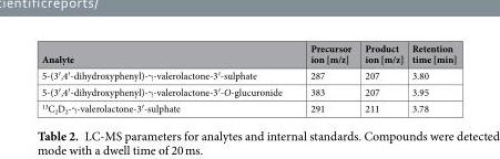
<table><thead><tr><td>Analyte</td><td>Precursor ion [m/z]</td><td>Product ion [m/z]</td><td>Retention time [min]</td></tr></thead><tbody><tr><td>5-(3′,4′-dihydroxyphenyl)-γ-valerolactone-3′-sulphate</td><td>287</td><td>207</td><td>3.80</td></tr><tr><td>5-(3′,4′-dihydroxyphenyl)-γ-valerolactone-3′-O-glucuronide</td><td>383</td><td>207</td><td>3.95</td></tr><tr><td><sup>13</sup>C<sub>2</sub>D<sub>2</sub>-γ-valerolactone-3′-sulphate</td><td>291</td><td>211</td><td>3.78</td></tr></tbody></table>